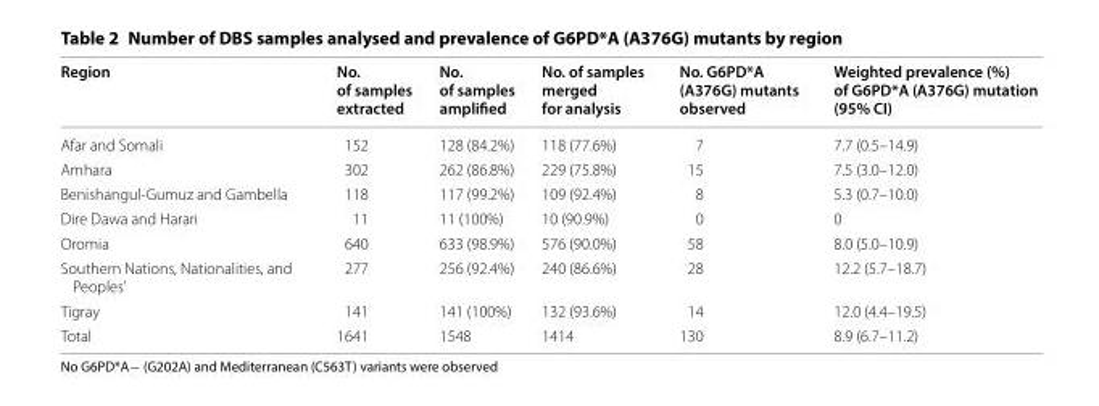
<table><thead><tr><td>Region</td><td>No. of samples extracted</td><td>No. of samples amplified</td><td>No. of samples merged for analysis</td><td>No. G6PD*A (A376G) mutants observed</td><td>Weighted prevalence (%) of G6PD*A (A376G) mutation (95% CI)</td></tr></thead><tbody><tr><td>Afar and Somali</td><td>152</td><td>128 (84.2%)</td><td>118 (77.6%)</td><td>7</td><td>7.7 (0.5–14.9)</td></tr><tr><td>Amhara</td><td>302</td><td>262 (86.8%)</td><td>229 (75.8%)</td><td>15</td><td>7.5 (3.0–12.0)</td></tr><tr><td>Benishangul-Gumuz and Gambella</td><td>118</td><td>117 (99.2%)</td><td>109 (92.4%)</td><td>8</td><td>5.3 (0.7–10.0)</td></tr><tr><td>Dire Dawa and Harari</td><td>11</td><td>11 (100%)</td><td>10 (90.9%)</td><td>0</td><td>0</td></tr><tr><td>Oromia</td><td>640</td><td>633 (98.9%)</td><td>576 (90.0%)</td><td>58</td><td>8.0 (5.0–10.9)</td></tr><tr><td>Southern Nations, Nationalities, and Peoples’</td><td>277</td><td>256 (92.4%)</td><td>240 (86.6%)</td><td>28</td><td>12.2 (5.7–18.7)</td></tr><tr><td>Tigray</td><td>141</td><td>141 (100%)</td><td>132 (93.6%)</td><td>14</td><td>12.0 (4.4–19.5)</td></tr><tr><td>Total</td><td>1641</td><td>1548</td><td>1414</td><td>130</td><td>8.9 (6.7–11.2)</td></tr></tbody></table>